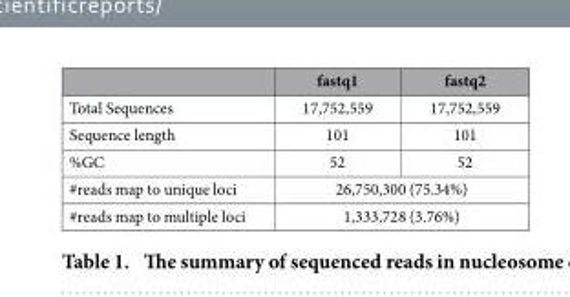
<table><thead><tr><td></td><td>fastq1</td><td>fastq2</td></tr></thead><tbody><tr><td>Total Sequences</td><td>17,752,559</td><td>17,752,559</td></tr><tr><td>Sequence length</td><td>101</td><td>101</td></tr><tr><td>%GC</td><td>52</td><td>52</td></tr><tr><td>#reads map to unique loci</td><td colspan="2">26,750,300 (75.34%)</td></tr><tr><td>#reads map to multiple loci</td><td colspan="2">1,333,728 (3.76%)</td></tr></tbody></table>